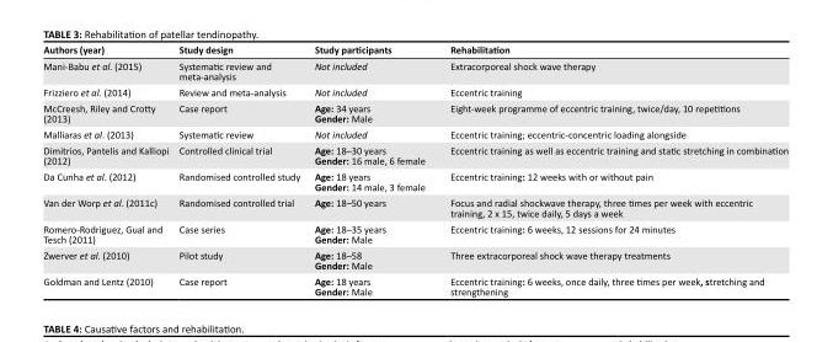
<table><thead><tr><td>Authors (year)</td><td>Study design</td><td>Study participants</td><td>Rehabilitation</td></tr></thead><tbody><tr><td>Mani-Babu et al. (2015)</td><td>Systematic review and meta-analysis</td><td>Not included</td><td>Extracorporeal shock wave therapy</td></tr><tr><td>Frizziero et al. (2014)</td><td>Review and meta-analysis</td><td>Not included</td><td>Eccentric training</td></tr><tr><td>McCreesh, Riley and Crotty (2013)</td><td>Case report</td><td>Age: 34 years Gender: Male</td><td>Eight-week programme of eccentric training, twice/day, 10 repetitions</td></tr><tr><td>Malliaras et al. (2013)</td><td>Systematic review</td><td>Not included</td><td>Eccentric training; eccentric-concentric loading alongside</td></tr><tr><td>Dimitrios, Pantelis and Kalliopi (2012)</td><td>Controlled clinical trial</td><td>Age: 18–30 years Gender: 16 male, 6 female</td><td>Eccentric training as well as eccentric training and static stretching in combination</td></tr><tr><td>Da Cunha et al. (2012)</td><td>Randomised controlled study</td><td>Age: 18 years Gender: 14 male, 3 female</td><td>Eccentric training: 12 weeks with or without pain</td></tr><tr><td>Van der Worp et al. (2011c)</td><td>Randomised controlled trial</td><td>Age: 18–50 years</td><td>Focus and radial shockwave therapy, three times per week with eccentric training, 2 x 15, twice daily, 5 days a week</td></tr><tr><td>Romero-Rodriguez, Gual and Tesch (2011)</td><td>Case series</td><td>Age: 18–35 years Gender: Male</td><td>Eccentric training: 6 weeks, 12 sessions for 24 minutes</td></tr><tr><td>Zwerver et al. (2010)</td><td>Pilot study</td><td>Age: 18–58 Gender: Male</td><td>Three extracorporeal shock wave therapy treatments</td></tr><tr><td>Goldman and Lentz (2010)</td><td>Case report</td><td>Age: 18 years Gender: Male</td><td>Eccentric training: 6 weeks, once daily, three times per week, stretching and strengthening</td></tr></tbody></table>